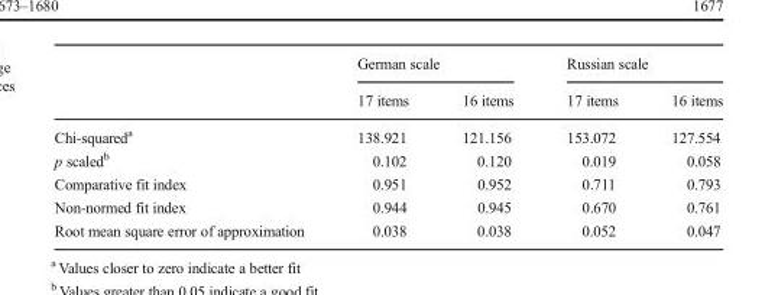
<table><thead><tr><td rowspan="2"></td><td colspan="2">German scale</td><td colspan="2">Russian scale</td></tr><tr><td>17 items</td><td>16 items</td><td>17 items</td><td>16 items</td></tr></thead><tbody><tr><td>Chi-squared<sup>a</sup></td><td>138.921</td><td>121.156</td><td>153.072</td><td>127.554</td></tr><tr><td>p scaled<sup>b</sup></td><td>0.102</td><td>0.120</td><td>0.019</td><td>0.058</td></tr><tr><td>Comparative fit index</td><td>0.951</td><td>0.952</td><td>0.711</td><td>0.793</td></tr><tr><td>Non-normed fit index</td><td>0.944</td><td>0.945</td><td>0.670</td><td>0.761</td></tr><tr><td>Root mean square error of approximation</td><td>0.038</td><td>0.038</td><td>0.052</td><td>0.047</td></tr></tbody></table>